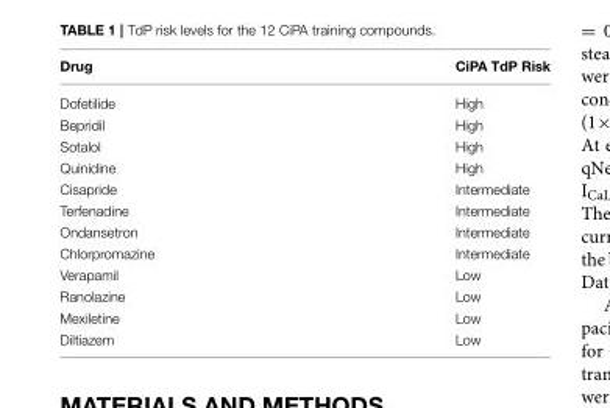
<table><thead><tr><td>Drug</td><td>CiPA TdP Risk</td></tr></thead><tbody><tr><td>Dofetilide</td><td>High</td></tr><tr><td>Bepridil</td><td>High</td></tr><tr><td>Sotalol</td><td>High</td></tr><tr><td>Quinidine</td><td>High</td></tr><tr><td>Cisapride</td><td>Intermediate</td></tr><tr><td>Terfenadine</td><td>Intermediate</td></tr><tr><td>Ondansetron</td><td>Intermediate</td></tr><tr><td>Chlorpromazine</td><td>Intermediate</td></tr><tr><td>Verapamil</td><td>Low</td></tr><tr><td>Ranolazine</td><td>Low</td></tr><tr><td>Mexiletine</td><td>Low</td></tr><tr><td>Diltiazem</td><td>Low</td></tr></tbody></table>